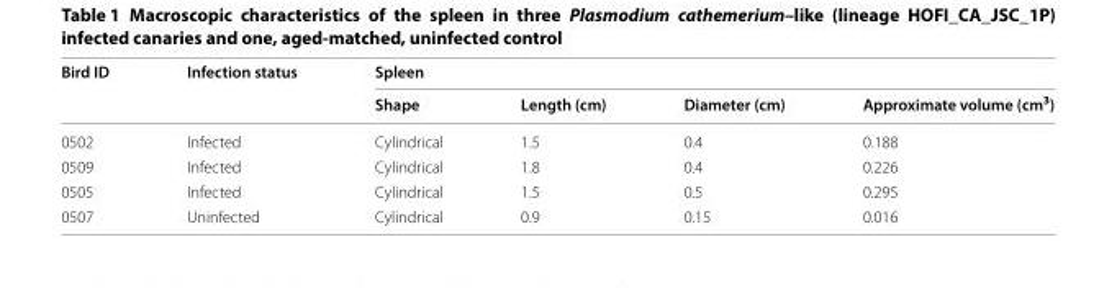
<table><thead><tr><td rowspan="2">Bird ID</td><td rowspan="2">Infection status</td><td colspan="4">Spleen</td></tr><tr><td>Shape</td><td>Length (cm)</td><td>Diameter (cm)</td><td>Approximate volume (cm<sup>3</sup>)</td></tr></thead><tbody><tr><td>0502</td><td>Infected</td><td>Cylindrical</td><td>1.5</td><td>0.4</td><td>0.188</td></tr><tr><td>0509</td><td>Infected</td><td>Cylindrical</td><td>1.8</td><td>0.4</td><td>0.226</td></tr><tr><td>0505</td><td>Infected</td><td>Cylindrical</td><td>1.5</td><td>0.5</td><td>0.295</td></tr><tr><td>0507</td><td>Uninfected</td><td>Cylindrical</td><td>0.9</td><td>0.15</td><td>0.016</td></tr></tbody></table>